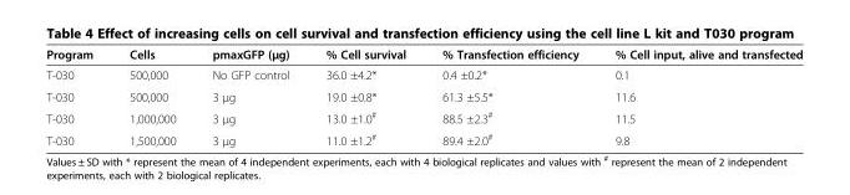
<table><thead><tr><td>Program</td><td>Cells</td><td>pmaxGFP (μg)</td><td>% Cell survival</td><td>% Transfection efficiency</td><td>% Cell input, alive and transfected</td></tr></thead><tbody><tr><td>T-030</td><td>500,000</td><td>No GFP control</td><td>36.0 ±4.2*</td><td>0.4 ±0.2*</td><td>0.1</td></tr><tr><td>T-030</td><td>500,000</td><td>3 μg</td><td>19.0 ±0.8*</td><td>61.3 ±5.5*</td><td>11.6</td></tr><tr><td>T-030</td><td>1,000,000</td><td>3 μg</td><td>13.0 ±1.0<sup>#</sup></td><td>88.5 ±2.3<sup>#</sup></td><td>11.5</td></tr><tr><td>T-030</td><td>1,500,000</td><td>3 μg</td><td>11.0 ±1.2<sup>#</sup></td><td>89.4 ±2.0<sup>#</sup></td><td>9.8</td></tr></tbody></table>